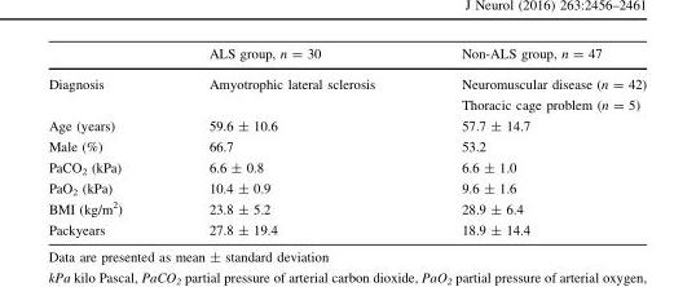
<table><thead><tr><td></td><td>ALS group, n = 30</td><td>Non-ALS group, n = 47</td></tr></thead><tbody><tr><td>Diagnosis</td><td>Amyotrophic lateral sclerosis</td><td>Neuromuscular disease (n = 42) Thoracic cage problem (n = 5)</td></tr><tr><td>Age (years)</td><td>59.6 ± 10.6</td><td>57.7 ± 14.7</td></tr><tr><td>Male (%)</td><td>66.7</td><td>53.2</td></tr><tr><td>PaCO<sub>2</sub> (kPa)</td><td>6.6 ± 0.8</td><td>6.6 ± 1.0</td></tr><tr><td>PaO<sub>2</sub> (kPa)</td><td>10.4 ± 0.9</td><td>9.6 ± 1.6</td></tr><tr><td>BMI (kg/m<sup>2</sup>)</td><td>23.8 ± 5.2</td><td>28.9 ± 6.4</td></tr><tr><td>Packyears</td><td>27.8 ± 19.4</td><td>18.9 ± 14.4</td></tr></tbody></table>